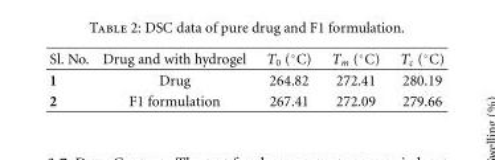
<table><thead><tr><td>Sl. No.</td><td>Drug and with hydrogel</td><td>T0 (◦C)</td><td>Tm (◦C)</td><td>Tc (◦C)</td></tr></thead><tbody><tr><td>1</td><td>Drug</td><td>264.82</td><td>272.41</td><td>280.19</td></tr><tr><td>2</td><td>F1 formulation</td><td>267.41</td><td>272.09</td><td>279.66</td></tr></tbody></table>